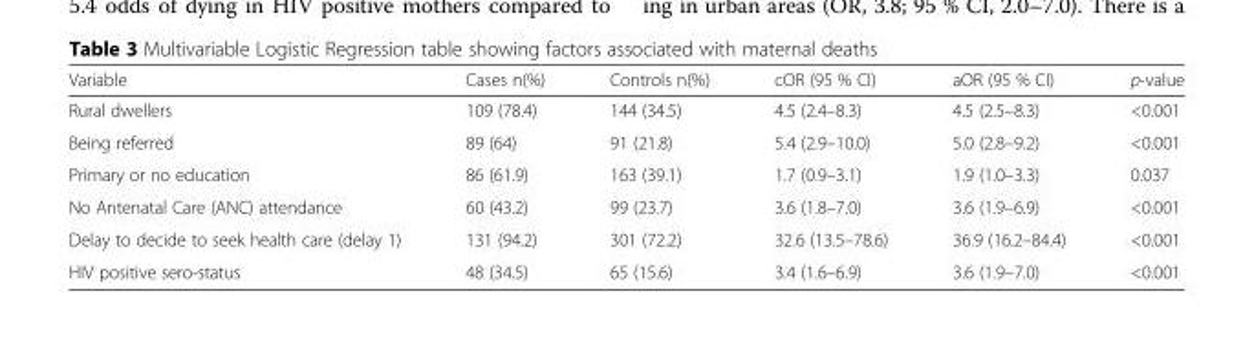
<table><thead><tr><td>Variable</td><td>Cases n(%)</td><td>Controls n(%)</td><td>cOR (95 % CI)</td><td>aOR (95 % CI)</td><td>p-value</td></tr></thead><tbody><tr><td>Rural dwellers</td><td>109 (78.4)</td><td>144 (34.5)</td><td>4.5 (2.4–8.3)</td><td>4.5 (2.5–8.3)</td><td>&lt;0.001</td></tr><tr><td>Being referred</td><td>89 (64)</td><td>91 (21.8)</td><td>5.4 (2.9–10.0)</td><td>5.0 (2.8–9.2)</td><td>&lt;0.001</td></tr><tr><td>Primary or no education</td><td>86 (61.9)</td><td>163 (39.1)</td><td>1.7 (0.9–3.1)</td><td>1.9 (1.0–3.3)</td><td>0.037</td></tr><tr><td>No Antenatal Care (ANC) attendance</td><td>60 (43.2)</td><td>99 (23.7)</td><td>3.6 (1.8–7.0)</td><td>3.6 (1.9–6.9)</td><td>&lt;0.001</td></tr><tr><td>Delay to decide to seek health care (delay 1)</td><td>131 (94.2)</td><td>301 (72.2)</td><td>32.6 (13.5–78.6)</td><td>36.9 (16.2–84.4)</td><td>&lt;0.001</td></tr><tr><td>HIV positive sero-status</td><td>48 (34.5)</td><td>65 (15.6)</td><td>3.4 (1.6–6.9)</td><td>3.6 (1.9–7.0)</td><td>&lt;0.001</td></tr></tbody></table>